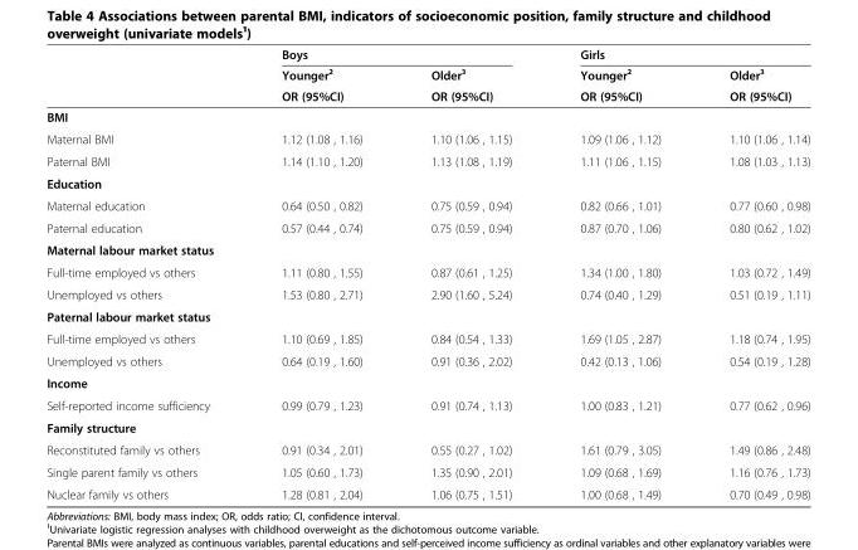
<table><thead><tr><td rowspan="3"></td><td colspan="2">Boys</td><td colspan="2">Girls</td></tr><tr><td rowspan="2">Younger² OR (95%CI)</td><td rowspan="2">Older³ OR (95%CI)</td><td rowspan="2">Younger² OR (95%CI)</td><td rowspan="2">Older³ OR (95%CI)</td></tr><tr></tr></thead><tbody><tr><td colspan="5">BMI</td></tr><tr><td>Maternal BMI</td><td>1.12 (1.08 , 1.16)</td><td>1.10 (1.06 , 1.15)</td><td>1.09 (1.06 , 1.12)</td><td>1.10 (1.06 , 1.14)</td></tr><tr><td>Paternal BMI</td><td>1.14 (1.10 , 1.20)</td><td>1.13 (1.08 , 1.19)</td><td>1.11 (1.06 , 1.15)</td><td>1.08 (1.03 , 1.13)</td></tr><tr><td colspan="5">Education</td></tr><tr><td>Maternal education</td><td>0.64 (0.50 , 0.82)</td><td>0.75 (0.59 , 0.94)</td><td>0.82 (0.66 , 1.01)</td><td>0.77 (0.60 , 0.98)</td></tr><tr><td>Paternal education</td><td>0.57 (0.44 , 0.74)</td><td>0.75 (0.59 , 0.94)</td><td>0.87 (0.70 , 1.06)</td><td>0.80 (0.62 , 1.02)</td></tr><tr><td colspan="5">Maternal labour market status</td></tr><tr><td>Full-time employed vs others</td><td>1.11 (0.80 , 1.55)</td><td>0.87 (0.61 , 1.25)</td><td>1.34 (1.00 , 1.80)</td><td>1.03 (0.72 , 1.49)</td></tr><tr><td>Unemployed vs others</td><td>1.53 (0.80 , 2.71)</td><td>2.90 (1.60 , 5.24)</td><td>0.74 (0.40 , 1.29)</td><td>0.51 (0.19 , 1.11)</td></tr><tr><td colspan="5">Paternal labour market status</td></tr><tr><td>Full-time employed vs others</td><td>1.10 (0.69 , 1.85)</td><td>0.84 (0.54 , 1.33)</td><td>1.69 (1.05 , 2.87)</td><td>1.18 (0.74 , 1.95)</td></tr><tr><td>Unemployed vs others</td><td>0.64 (0.19 , 1.60)</td><td>0.91 (0.36 , 2.02)</td><td>0.42 (0.13 , 1.06)</td><td>0.54 (0.19 , 1.28)</td></tr><tr><td colspan="5">Income</td></tr><tr><td>Self-reported income sufficiency</td><td>0.99 (0.79 , 1.23)</td><td>0.91 (0.74 , 1.13)</td><td>1.00 (0.83 , 1.21)</td><td>0.77 (0.62 , 0.96)</td></tr><tr><td colspan="5">Family structure</td></tr><tr><td>Reconstituted family vs others</td><td>0.91 (0.34 , 2.01)</td><td>0.55 (0.27 , 1.02)</td><td>1.61 (0.79 , 3.05)</td><td>1.49 (0.86 , 2.48)</td></tr><tr><td>Single parent family vs others</td><td>1.05 (0.60 , 1.73)</td><td>1.35 (0.90 , 2.01)</td><td>1.09 (0.68 , 1.69)</td><td>1.16 (0.76 , 1.73)</td></tr><tr><td>Nuclear family vs others</td><td>1.28 (0.81 , 2.04)</td><td>1.06 (0.75 , 1.51)</td><td>1.00 (0.68 , 1.49)</td><td>0.70 (0.49 , 0.98)</td></tr></tbody></table>